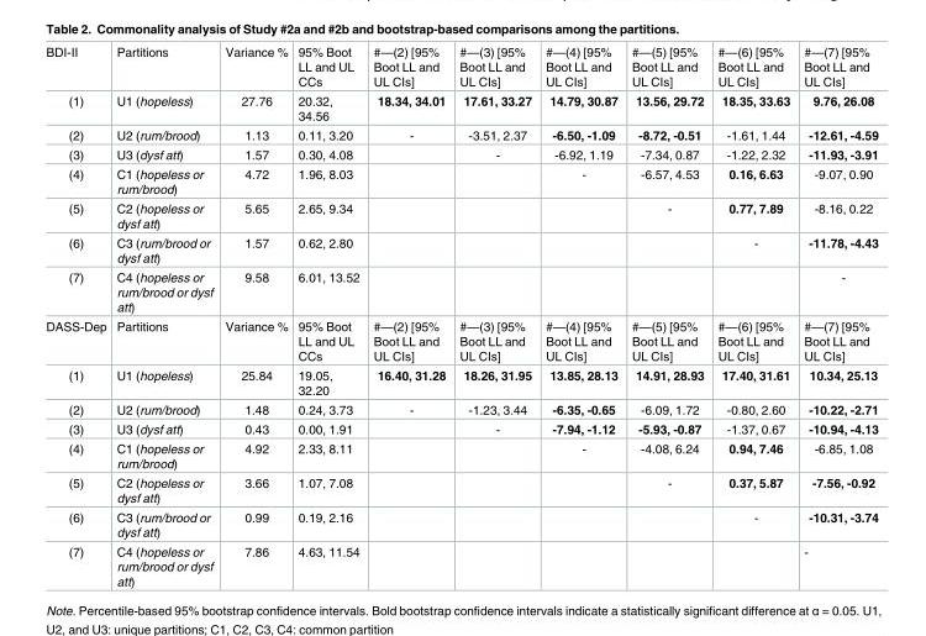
<table><tbody><tr><td>BDI-II</td><td>Partitions</td><td>Variance %</td><td>95% Boot LL and UL CCs</td><td>#—(2) [95% Boot LL and UL CIs]</td><td>#—(3) [95% Boot LL and UL CIs]</td><td>#—(4) [95% Boot LL and UL CIs]</td><td>#—(5) [95% Boot LL and UL CIs]</td><td>#—(6) [95% Boot LL and UL CIs]</td><td>#—(7) [95% Boot LL and UL CIs]</td></tr><tr><td>(1)</td><td>U1 (hopeless)</td><td>27.76</td><td>20.32, 34.56</td><td>18.34, 34.01</td><td>17.61, 33.27</td><td>14.79, 30.87</td><td>13.56, 29.72</td><td>18.35, 33.63</td><td>9.76, 26.08</td></tr><tr><td>(2)</td><td>U2 (rum/brood)</td><td>1.13</td><td>0.11, 3.20</td><td>-</td><td>-3.51, 2.37</td><td>-6.50, -1.09</td><td>-8.72, -0.51</td><td>-1.61, 1.44</td><td>-12.61, -4.59</td></tr><tr><td>(3)</td><td>U3 (dysf att)</td><td>1.57</td><td>0.30, 4.08</td><td></td><td>-</td><td>-6.92, 1.19</td><td>-7.34, 0.87</td><td>-1.22, 2.32</td><td>-11.93, -3.91</td></tr><tr><td>(4)</td><td>C1 (hopeless or rum/brood)</td><td>4.72</td><td>1.96, 8.03</td><td></td><td></td><td>-</td><td>-6.57, 4.53</td><td>0.16, 6.63</td><td>-9.07, 0.90</td></tr><tr><td>(5)</td><td>C2 (hopeless or dysf att)</td><td>5.65</td><td>2.65, 9.34</td><td></td><td></td><td></td><td>-</td><td>0.77, 7.89</td><td>-8.16, 0.22</td></tr><tr><td>(6)</td><td>C3 (rum/brood or dysf att)</td><td>1.57</td><td>0.62, 2.80</td><td></td><td></td><td></td><td></td><td>-</td><td>-11.78, -4.43</td></tr><tr><td>(7)</td><td>C4 (hopeless or rum/brood or dysf att)</td><td>9.58</td><td>6.01, 13.52</td><td></td><td></td><td></td><td></td><td></td><td>-</td></tr><tr><td>DASS-Dep</td><td>Partitions</td><td>Variance %</td><td>95% Boot LL and UL CCs</td><td>#—(2) [95% Boot LL and UL CIs]</td><td>#—(3) [95% Boot LL and UL CIs]</td><td>#—(4) [95% Boot LL and UL CIs]</td><td>#—(5) [95% Boot LL and UL CIs]</td><td>#—(6) [95% Boot LL and UL CIs]</td><td>#—(7) [95% Boot LL and UL CIs]</td></tr><tr><td>(1)</td><td>U1 (hopeless)</td><td>25.84</td><td>19.05, 32.20</td><td>16.40, 31.28</td><td>18.26, 31.95</td><td>13.85, 28.13</td><td>14.91, 28.93</td><td>17.40, 31.61</td><td>10.34, 25.13</td></tr><tr><td>(2)</td><td>U2 (rum/brood)</td><td>1.48</td><td>0.24, 3.73</td><td>-</td><td>-1.23, 3.44</td><td>-6.35, -0.65</td><td>-6.09, 1.72</td><td>-0.80, 2.60</td><td>-10.22, -2.71</td></tr><tr><td>(3)</td><td>U3 (dysf att)</td><td>0.43</td><td>0.00, 1.91</td><td></td><td>-</td><td>-7.94, -1.12</td><td>-5.93, -0.87</td><td>-1.37, 0.67</td><td>-10.94, -4.13</td></tr><tr><td>(4)</td><td>C1 (hopeless or rum/brood)</td><td>4.92</td><td>2.33, 8.11</td><td></td><td></td><td>-</td><td>-4.08, 6.24</td><td>0.94, 7.46</td><td>-6.85, 1.08</td></tr><tr><td>(5)</td><td>C2 (hopeless or dysf att)</td><td>3.66</td><td>1.07, 7.08</td><td></td><td></td><td></td><td>-</td><td>0.37, 5.87</td><td>-7.56, -0.92</td></tr><tr><td>(6)</td><td>C3 (rum/brood or dysf att)</td><td>0.99</td><td>0.19, 2.16</td><td></td><td></td><td></td><td></td><td>-</td><td>-10.31, -3.74</td></tr><tr><td>(7)</td><td>C4 (hopeless or rum/brood or dysf att)</td><td>7.86</td><td>4.63, 11.54</td><td></td><td></td><td></td><td></td><td></td><td>-</td></tr></tbody></table>